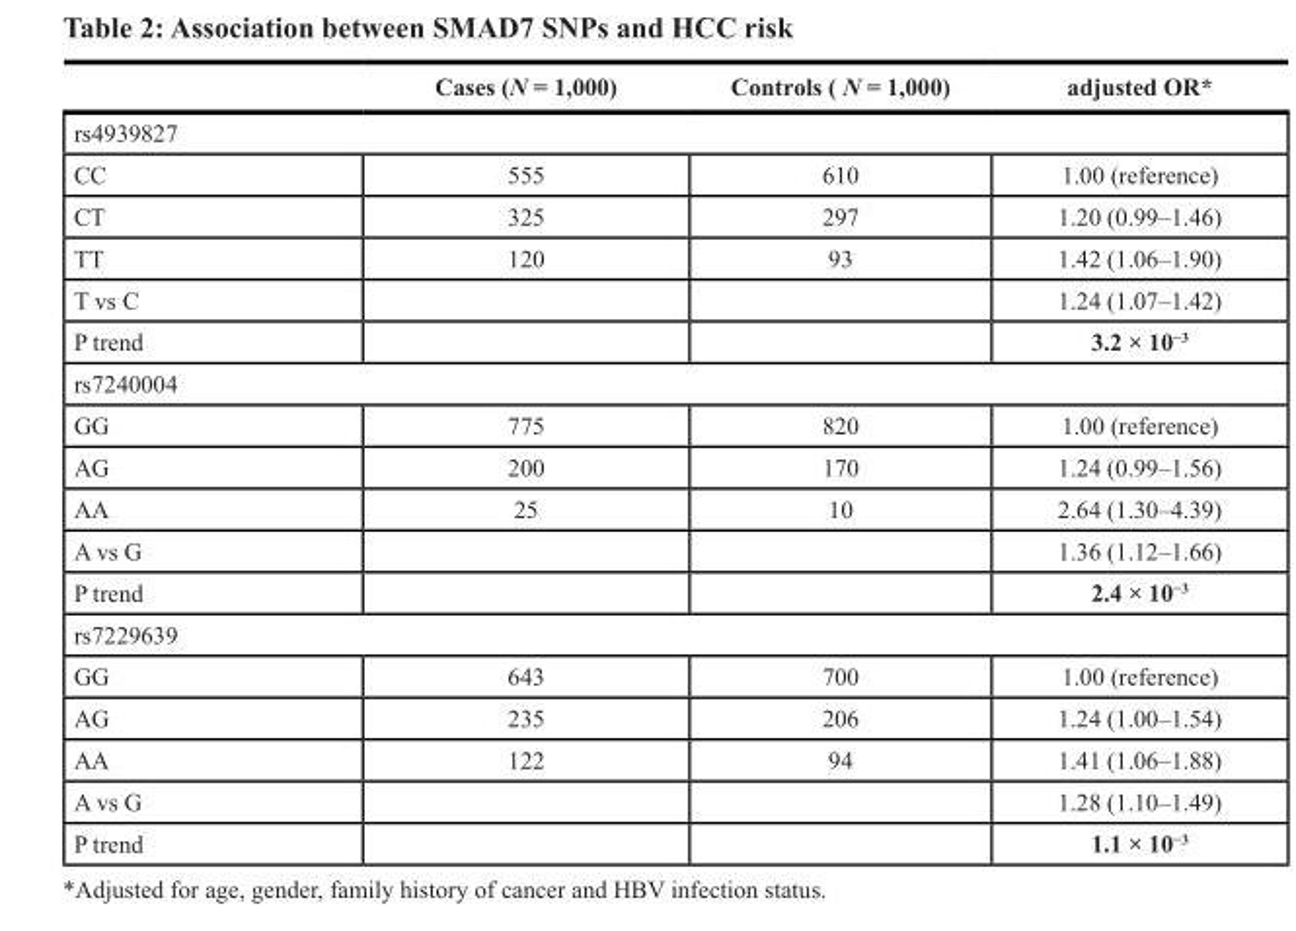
<table><thead><tr><td></td><td>Cases (N = 1,000)</td><td>Controls ( N = 1,000)</td><td>adjusted OR*</td></tr></thead><tbody><tr><td colspan="4">rs4939827</td></tr><tr><td>CC</td><td>555</td><td>610</td><td>1.00 (reference)</td></tr><tr><td>CT</td><td>325</td><td>297</td><td>1.20 (0.99–1.46)</td></tr><tr><td>TT</td><td>120</td><td>93</td><td>1.42 (1.06–1.90)</td></tr><tr><td>T vs C</td><td></td><td></td><td>1.24 (1.07–1.42)</td></tr><tr><td>P trend</td><td></td><td></td><td>3.2 × 10<sup>−3</sup></td></tr><tr><td colspan="4">rs7240004</td></tr><tr><td>GG</td><td>775</td><td>820</td><td>1.00 (reference)</td></tr><tr><td>AG</td><td>200</td><td>170</td><td>1.24 (0.99–1.56)</td></tr><tr><td>AA</td><td>25</td><td>10</td><td>2.64 (1.30–4.39)</td></tr><tr><td>A vs G</td><td></td><td></td><td>1.36 (1.12–1.66)</td></tr><tr><td>P trend</td><td></td><td></td><td>2.4 × 10<sup>−3</sup></td></tr><tr><td colspan="4">rs7229639</td></tr><tr><td>GG</td><td>643</td><td>700</td><td>1.00 (reference)</td></tr><tr><td>AG</td><td>235</td><td>206</td><td>1.24 (1.00–1.54)</td></tr><tr><td>AA</td><td>122</td><td>94</td><td>1.41 (1.06–1.88)</td></tr><tr><td>A vs G</td><td></td><td></td><td>1.28 (1.10–1.49)</td></tr><tr><td>P trend</td><td></td><td></td><td>1.1 × 10<sup>−3</sup></td></tr></tbody></table>